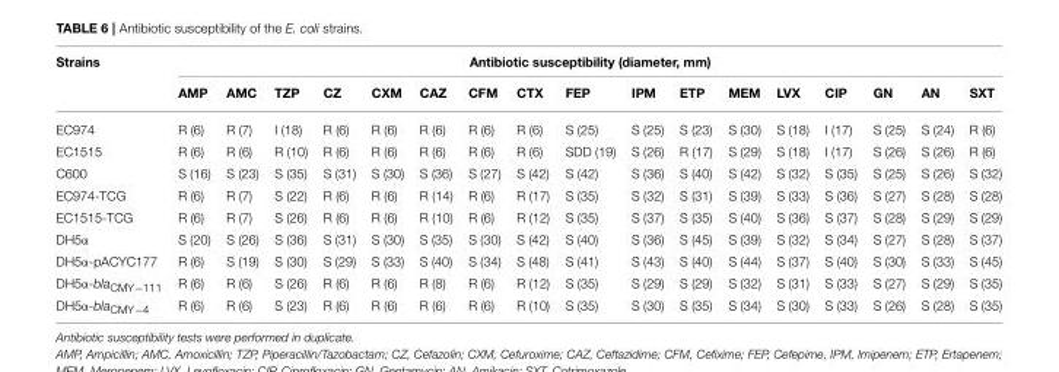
<table><thead><tr><td rowspan="2">Strains</td><td colspan="17">Antibiotic susceptibility (diameter, mm)</td></tr><tr><td>AMP</td><td>AMC</td><td>TZP</td><td>CZ</td><td>CXM</td><td>CAZ</td><td>CFM</td><td>CTX</td><td>FEP</td><td>IPM</td><td>ETP</td><td>MEM</td><td>LVX</td><td>CIP</td><td>GN</td><td>AN</td><td>SXT</td></tr></thead><tbody><tr><td>EC974</td><td>R (6)</td><td>R (7)</td><td>I (18)</td><td>R (6)</td><td>R (6)</td><td>R (6)</td><td>R (6)</td><td>R (6)</td><td>S (25)</td><td>S (25)</td><td>S (23)</td><td>S (30)</td><td>S (18)</td><td>I (17)</td><td>S (25)</td><td>S (24)</td><td>R (6)</td></tr><tr><td>EC1515</td><td>R (6)</td><td>R (6)</td><td>R (10)</td><td>R (6)</td><td>R (6)</td><td>R (6)</td><td>R (6)</td><td>R (6)</td><td>SDD (19)</td><td>S (26)</td><td>R (17)</td><td>S (29)</td><td>S (18)</td><td>I (17)</td><td>S (26)</td><td>S (26)</td><td>R (6)</td></tr><tr><td>C600</td><td>S (16)</td><td>S (23)</td><td>S (35)</td><td>S (31)</td><td>S (30)</td><td>S (36)</td><td>S (27)</td><td>S (42)</td><td>S (42)</td><td>S (36)</td><td>S (40)</td><td>S (42)</td><td>S (32)</td><td>S (35)</td><td>S (25)</td><td>S (26)</td><td>S (32)</td></tr><tr><td>EC974-TCG</td><td>R (6)</td><td>R (7)</td><td>S (22)</td><td>R (6)</td><td>R (6)</td><td>R (14)</td><td>R (6)</td><td>R (17)</td><td>S (35)</td><td>S (32)</td><td>S (31)</td><td>S (39)</td><td>S (33)</td><td>S (36)</td><td>S (27)</td><td>S (28)</td><td>S (28)</td></tr><tr><td>EC1515-TCG</td><td>R (6)</td><td>R (7)</td><td>S (26)</td><td>R (6)</td><td>R (6)</td><td>R (10)</td><td>R (6)</td><td>R (12)</td><td>S (35)</td><td>S (37)</td><td>S (35)</td><td>S (40)</td><td>S (36)</td><td>S (37)</td><td>S (28)</td><td>S (29)</td><td>S (29)</td></tr><tr><td>DH5α</td><td>S (20)</td><td>S (26)</td><td>S (36)</td><td>S (31)</td><td>S (30)</td><td>S (35)</td><td>S (30)</td><td>S (42)</td><td>S (40)</td><td>S (36)</td><td>S (45)</td><td>S (39)</td><td>S (32)</td><td>S (34)</td><td>S (27)</td><td>S (28)</td><td>S (37)</td></tr><tr><td>DH5α-pACYC177</td><td>R (6)</td><td>S (19)</td><td>S (30)</td><td>S (29)</td><td>S (33)</td><td>S (40)</td><td>S (34)</td><td>S (48)</td><td>S (41)</td><td>S (43)</td><td>S (40)</td><td>S (44)</td><td>S (37)</td><td>S (40)</td><td>S (30)</td><td>S (33)</td><td>S (45)</td></tr><tr><td>DH5α-bla<sub>CMY−111</sub></td><td>R (6)</td><td>R (6)</td><td>S (26)</td><td>R (6)</td><td>R (6)</td><td>R (8)</td><td>R (6)</td><td>R (12)</td><td>S (35)</td><td>S (29)</td><td>S (29)</td><td>S (32)</td><td>S (31)</td><td>S (33)</td><td>S (27)</td><td>S (29)</td><td>S (35)</td></tr><tr><td>DH5α-bla<sub>CMY−4</sub></td><td>R (6)</td><td>R (6)</td><td>S (23)</td><td>R (6)</td><td>R (6)</td><td>R (6)</td><td>R (6)</td><td>R (10)</td><td>S (35)</td><td>S (30)</td><td>S (35)</td><td>S (34)</td><td>S (30)</td><td>S (33)</td><td>S (26)</td><td>S (28)</td><td>S (35)</td></tr></tbody></table>